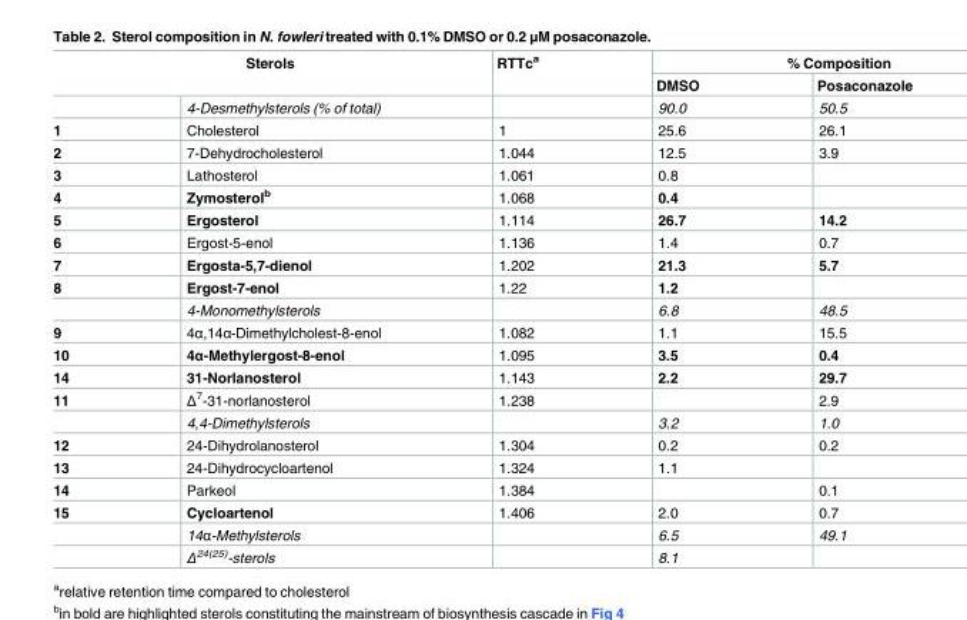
<table><thead><tr><td rowspan="2" colspan="2">Sterols</td><td rowspan="3">RTTc<sup>a</sup></td><td colspan="2">% Composition</td></tr><tr><td rowspan="2">DMSO 90.0</td><td rowspan="2">Posaconazole 50.5</td></tr><tr><td></td><td>4-Desmethylsterols (% of total)</td></tr></thead><tbody><tr><td>1</td><td>Cholesterol</td><td>1</td><td>25.6</td><td>26.1</td></tr><tr><td>2</td><td>7-Dehydrocholesterol</td><td>1.044</td><td>12.5</td><td>3.9</td></tr><tr><td>3</td><td>Lathosterol</td><td>1.061</td><td>0.8</td><td></td></tr><tr><td>4</td><td>Zymosterol<sup>b</sup></td><td>1.068</td><td>0.4</td><td></td></tr><tr><td>5</td><td>Ergosterol</td><td>1.114</td><td>26.7</td><td>14.2</td></tr><tr><td>6</td><td>Ergost-5-enol</td><td>1.136</td><td>1.4</td><td>0.7</td></tr><tr><td>7</td><td>Ergosta-5,7-dienol</td><td>1.202</td><td>21.3</td><td>5.7</td></tr><tr><td rowspan="2">8</td><td>Ergost-7-enol</td><td>1.22</td><td>1.2</td><td></td></tr><tr><td>4-Monomethylsterols</td><td></td><td>6.8</td><td>48.5</td></tr><tr><td>9</td><td>4α,14α-Dimethylcholest-8-enol</td><td>1.082</td><td>1.1</td><td>15.5</td></tr><tr><td>10</td><td>4α-Methylergost-8-enol</td><td>1.095</td><td>3.5</td><td>0.4</td></tr><tr><td>14</td><td>31-Norlanosterol</td><td>1.143</td><td>2.2</td><td>29.7</td></tr><tr><td rowspan="2">11</td><td>Δ<sup>7</sup>-31-norlanosterol</td><td>1.238</td><td></td><td>2.9</td></tr><tr><td>4,4-Dimethylsterols</td><td></td><td>3.2</td><td>1.0</td></tr><tr><td>12</td><td>24-Dihydrolanosterol</td><td>1.304</td><td>0.2</td><td>0.2</td></tr><tr><td>13</td><td>24-Dihydrocycloartenol</td><td>1.324</td><td>1.1</td><td></td></tr><tr><td>14</td><td>Parkeol</td><td>1.384</td><td></td><td>0.1</td></tr><tr><td rowspan="3">15</td><td>Cycloartenol</td><td>1.406</td><td>2.0</td><td>0.7</td></tr><tr><td>14α-Methylsterols</td><td></td><td>6.5</td><td>49.1</td></tr><tr><td>Δ<sup>24(25)</sup>-sterols</td><td></td><td>8.1</td><td></td></tr></tbody></table>